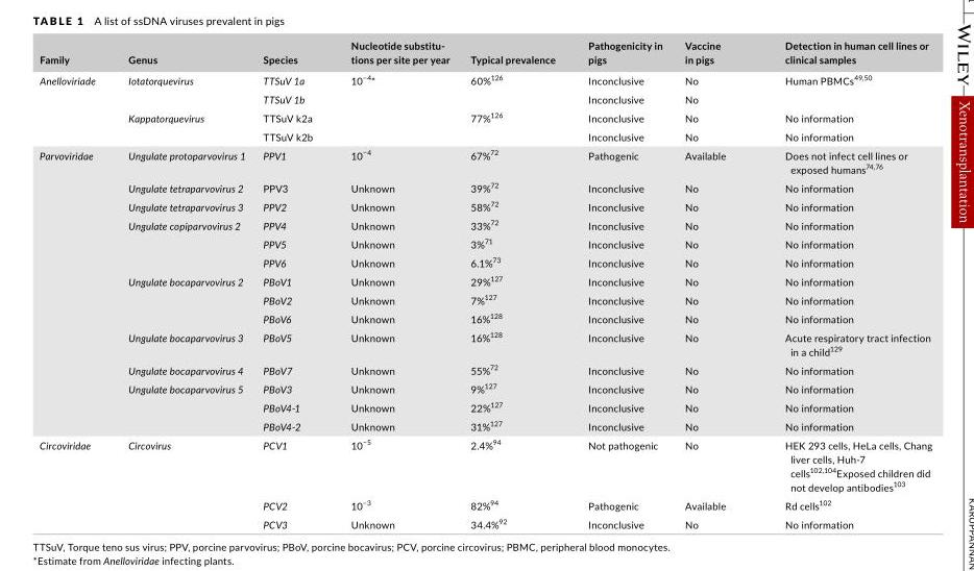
<table><thead><tr><td>Family</td><td>Genus</td><td>Species</td><td>Nucleotide substitu- tions per site per year</td><td>Typical prevalence</td><td>Pathogenicity in pigs</td><td>Vaccine in pigs</td><td>Detection in human cell lines or clinical samples</td></tr></thead><tbody><tr><td rowspan="4">Anelloviriade</td><td rowspan="2">Iotatorquevirus</td><td>TTSuV 1a</td><td rowspan="4">10−4*</td><td rowspan="2">60%<sup>126</sup></td><td>Inconclusive</td><td>No</td><td rowspan="2">Human PBMCs<sup>49</sup>,<sup>50</sup></td></tr><tr><td>TTSuV 1b</td><td>Inconclusive</td><td>No</td></tr><tr><td rowspan="2">Kappatorquevirus</td><td>TTSuV k2a</td><td rowspan="2">77%<sup>126</sup></td><td>Inconclusive</td><td>No</td><td>No information</td></tr><tr><td>TTSuV k2b</td><td>Inconclusive</td><td>No</td><td>No information</td></tr><tr><td rowspan="14">Parvoviridae</td><td>Ungulate protoparvovirus 1</td><td>PPV1</td><td>10−4</td><td>67%<sup>72</sup></td><td>Pathogenic</td><td>Available</td><td>Does not infect cell lines or exposed humans<sup>74</sup>,<sup>76</sup></td></tr><tr><td>Ungulate tetraparvovirus 2</td><td>PPV3</td><td>Unknown</td><td>39%<sup>72</sup></td><td>Inconclusive</td><td>No</td><td>No information</td></tr><tr><td>Ungulate tetraparvovirus 3</td><td>PPV2</td><td>Unknown</td><td>58%<sup>72</sup></td><td>Inconclusive</td><td>No</td><td>No information</td></tr><tr><td rowspan="3">Ungulate copiparvovirus 2</td><td>PPV4</td><td>Unknown</td><td>33%<sup>72</sup></td><td>Inconclusive</td><td>No</td><td>No information</td></tr><tr><td>PPV5</td><td>Unknown</td><td>3%<sup>71</sup></td><td>Inconclusive</td><td>No</td><td>No information</td></tr><tr><td>PPV6</td><td>Unknown</td><td>6.1%<sup>73</sup></td><td>Inconclusive</td><td>No</td><td>No information</td></tr><tr><td rowspan="3">Ungulate bocaparvovirus 2</td><td>PBoV1</td><td>Unknown</td><td>29%<sup>127</sup></td><td>Inconclusive</td><td>No</td><td>No information</td></tr><tr><td>PBoV2</td><td>Unknown</td><td>7%<sup>127</sup></td><td>Inconclusive</td><td>No</td><td>No information</td></tr><tr><td>PBoV6</td><td>Unknown</td><td>16%<sup>128</sup></td><td>Inconclusive</td><td>No</td><td>No information</td></tr><tr><td>Ungulate bocaparvovirus 3</td><td>PBoV5</td><td>Unknown</td><td>16%<sup>128</sup></td><td>Inconclusive</td><td>No</td><td>Acute respiratory tract infection in a child<sup>129</sup></td></tr><tr><td>Ungulate bocaparvovirus 4</td><td>PBoV7</td><td>Unknown</td><td>55%<sup>72</sup></td><td>Inconclusive</td><td>No</td><td>No information</td></tr><tr><td rowspan="3">Ungulate bocaparvovirus 5</td><td>PBoV3</td><td>Unknown</td><td>9%<sup>127</sup></td><td>Inconclusive</td><td>No</td><td>No information</td></tr><tr><td>PBoV4-1</td><td>Unknown</td><td>22%<sup>127</sup></td><td>Inconclusive</td><td>No</td><td>No information</td></tr><tr><td>PBoV4-2</td><td>Unknown</td><td>31%<sup>127</sup></td><td>Inconclusive</td><td>No</td><td>No information</td></tr><tr><td rowspan="3">Circoviridae</td><td rowspan="3">Circovirus</td><td>PCV1</td><td>10<sup>−5</sup></td><td>2.4%<sup>94</sup></td><td>Not pathogenic</td><td>No</td><td>HEK 293 cells, HeLa cells, Chang liver cells, Huh-7 cells<sup>102</sup>,<sup>104</sup>Exposed children did not develop antibodies<sup>103</sup></td></tr><tr><td>PCV2</td><td>10<sup>−3</sup></td><td>82%<sup>94</sup></td><td>Pathogenic</td><td>Available</td><td>Rd cells<sup>102</sup></td></tr><tr><td>PCV3</td><td>Unknown</td><td>34.4%<sup>92</sup></td><td>Inconclusive</td><td>No</td><td>No information</td></tr></tbody></table>